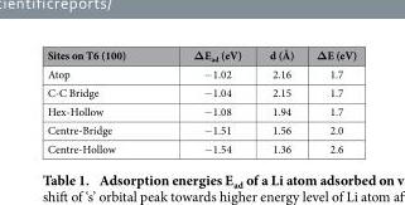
<table><thead><tr><td>Sites on T6 (100)</td><td>ΔE<sub>ad</sub> (eV)</td><td>d (Å)</td><td>ΔE (eV)</td></tr></thead><tbody><tr><td>Atop</td><td>− 1.02</td><td>2.16</td><td>1.7</td></tr><tr><td>C-C Bridge</td><td>− 1.04</td><td>2.15</td><td>1.7</td></tr><tr><td>Hex-Hollow</td><td>− 1.08</td><td>1.94</td><td>1.7</td></tr><tr><td>Centre-Bridge</td><td>− 1.51</td><td>1.56</td><td>2.0</td></tr><tr><td>Centre-Hollow</td><td>− 1.54</td><td>1.36</td><td>2.6</td></tr></tbody></table>